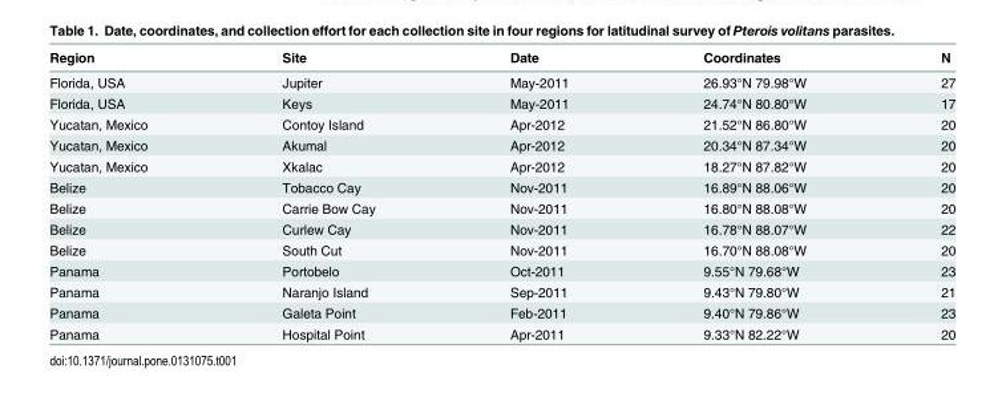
<table><thead><tr><td>Region</td><td>Site</td><td>Date</td><td>Coordinates</td><td>N</td></tr></thead><tbody><tr><td>Florida, USA</td><td>Jupiter</td><td>May-2011</td><td>26.93°N 79.98°W</td><td>27</td></tr><tr><td>Florida, USA</td><td>Keys</td><td>May-2011</td><td>24.74°N 80.80°W</td><td>17</td></tr><tr><td>Yucatan, Mexico</td><td>Contoy Island</td><td>Apr-2012</td><td>21.52°N 86.80°W</td><td>20</td></tr><tr><td>Yucatan, Mexico</td><td>Akumal</td><td>Apr-2012</td><td>20.34°N 87.34°W</td><td>20</td></tr><tr><td>Yucatan, Mexico</td><td>Xkalac</td><td>Apr-2012</td><td>18.27°N 87.82°W</td><td>20</td></tr><tr><td>Belize</td><td>Tobacco Cay</td><td>Nov-2011</td><td>16.89°N 88.06°W</td><td>20</td></tr><tr><td>Belize</td><td>Carrie Bow Cay</td><td>Nov-2011</td><td>16.80°N 88.08°W</td><td>20</td></tr><tr><td>Belize</td><td>Curlew Cay</td><td>Nov-2011</td><td>16.78°N 88.07°W</td><td>22</td></tr><tr><td>Belize</td><td>South Cut</td><td>Nov-2011</td><td>16.70°N 88.08°W</td><td>20</td></tr><tr><td>Panama</td><td>Portobelo</td><td>Oct-2011</td><td>9.55°N 79.68°W</td><td>23</td></tr><tr><td>Panama</td><td>Naranjo Island</td><td>Sep-2011</td><td>9.43°N 79.80°W</td><td>21</td></tr><tr><td>Panama</td><td>Galeta Point</td><td>Feb-2011</td><td>9.40°N 79.86°W</td><td>23</td></tr><tr><td>Panama</td><td>Hospital Point</td><td>Apr-2011</td><td>9.33°N 82.22°W</td><td>20</td></tr></tbody></table>